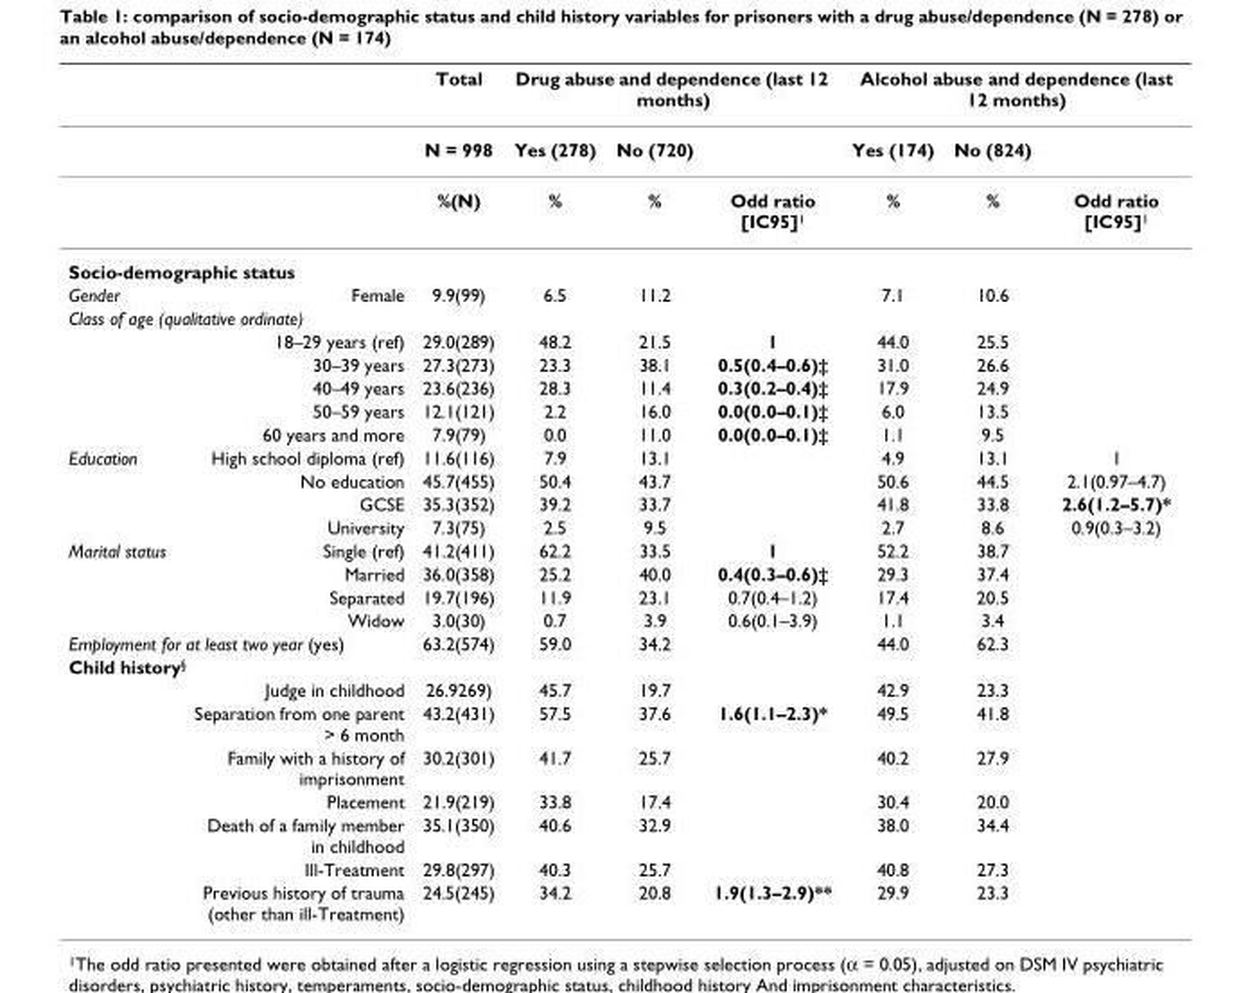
<table><thead><tr><td rowspan="2"></td><td rowspan="2"></td><td rowspan="2">Total N = 998</td><td colspan="3">Drug abuse and dependence (last 12 months)</td><td colspan="3">Alcohol abuse and dependence (last 12 months)</td></tr><tr><td>Yes (278)</td><td>No (720)</td><td></td><td>Yes (174)</td><td>No (824)</td><td></td></tr></thead><tbody><tr><td></td><td></td><td>%(N)</td><td>%</td><td>%</td><td>Odd ratio [IC95]<sup>1</sup></td><td>%</td><td>%</td><td>Odd ratio [IC95]<sup>1</sup></td></tr><tr><td colspan="9">Socio-demographic status</td></tr><tr><td>Gender</td><td>Female</td><td>9.9(99)</td><td>6.5</td><td>11.2</td><td></td><td>7.1</td><td>10.6</td><td></td></tr><tr><td colspan="9">Class of age (qualitative ordinate)</td></tr><tr><td></td><td>18–29 years (ref)</td><td>29.0(289)</td><td>48.2</td><td>21.5</td><td>1</td><td>44.0</td><td>25.5</td><td></td></tr><tr><td></td><td>30–39 years</td><td>27.3(273)</td><td>23.3</td><td>38.1</td><td>0.5(0.4–0.6)‡</td><td>31.0</td><td>26.6</td><td></td></tr><tr><td></td><td>40–49 years</td><td>23.6(236)</td><td>28.3</td><td>11.4</td><td>0.3(0.2–0.4)‡</td><td>17.9</td><td>24.9</td><td></td></tr><tr><td></td><td>50–59 years</td><td>12.1(121)</td><td>2.2</td><td>16.0</td><td>0.0(0.0–0.1)‡</td><td>6.0</td><td>13.5</td><td></td></tr><tr><td></td><td>60 years and more</td><td>7.9(79)</td><td>0.0</td><td>11.0</td><td>0.0(0.0–0.1)‡</td><td>1.1</td><td>9.5</td><td></td></tr><tr><td rowspan="4">Education</td><td>High school diploma (ref)</td><td>11.6(116)</td><td>7.9</td><td>13.1</td><td></td><td>4.9</td><td>13.1</td><td>1</td></tr><tr><td>No education</td><td>45.7(455)</td><td>50.4</td><td>43.7</td><td></td><td>50.6</td><td>44.5</td><td>2.1(0.97–4.7)</td></tr><tr><td>GCSE</td><td>35.3(352)</td><td>39.2</td><td>33.7</td><td></td><td>41.8</td><td>33.8</td><td>2.6(1.2–5.7)*</td></tr><tr><td>University</td><td>7.3(75)</td><td>2.5</td><td>9.5</td><td></td><td>2.7</td><td>8.6</td><td>0.9(0.3–3.2)</td></tr><tr><td rowspan="4">Marital status</td><td>Single (ref)</td><td>41.2(411)</td><td>62.2</td><td>33.5</td><td>1</td><td>52.2</td><td>38.7</td><td></td></tr><tr><td>Married</td><td>36.0(358)</td><td>25.2</td><td>40.0</td><td>0.4(0.3–0.6)‡</td><td>29.3</td><td>37.4</td><td></td></tr><tr><td>Separated</td><td>19.7(196)</td><td>11.9</td><td>23.1</td><td>0.7(0.4–1.2)</td><td>17.4</td><td>20.5</td><td></td></tr><tr><td>Widow</td><td>3.0(30)</td><td>0.7</td><td>3.9</td><td>0.6(0.1–3.9)</td><td>1.1</td><td>3.4</td><td></td></tr><tr><td colspan="2">Employment for at least two year (yes)</td><td>63.2(574)</td><td>59.0</td><td>34.2</td><td></td><td>44.0</td><td>62.3</td><td></td></tr><tr><td colspan="9">Child history<sup>§</sup></td></tr><tr><td></td><td>Judge in childhood</td><td>26.9269)</td><td>45.7</td><td>19.7</td><td></td><td>42.9</td><td>23.3</td><td></td></tr><tr><td></td><td>Separation from one parent &gt; 6 month</td><td>43.2(431)</td><td>57.5</td><td>37.6</td><td>1.6(1.1–2.3)*</td><td>49.5</td><td>41.8</td><td></td></tr><tr><td></td><td>Family with a history of imprisonment</td><td>30.2(301)</td><td>41.7</td><td>25.7</td><td></td><td>40.2</td><td>27.9</td><td></td></tr><tr><td></td><td>Placement</td><td>21.9(219)</td><td>33.8</td><td>17.4</td><td></td><td>30.4</td><td>20.0</td><td></td></tr><tr><td></td><td>Death of a family member in childhood</td><td>35.1(350)</td><td>40.6</td><td>32.9</td><td></td><td>38.0</td><td>34.4</td><td></td></tr><tr><td></td><td>Ill-Treatment</td><td>29.8(297)</td><td>40.3</td><td>25.7</td><td></td><td>40.8</td><td>27.3</td><td></td></tr><tr><td></td><td>Previous history of trauma (other than ill-Treatment)</td><td>24.5(245)</td><td>34.2</td><td>20.8</td><td>1.9(1.3–2.9)**</td><td>29.9</td><td>23.3</td><td></td></tr></tbody></table>